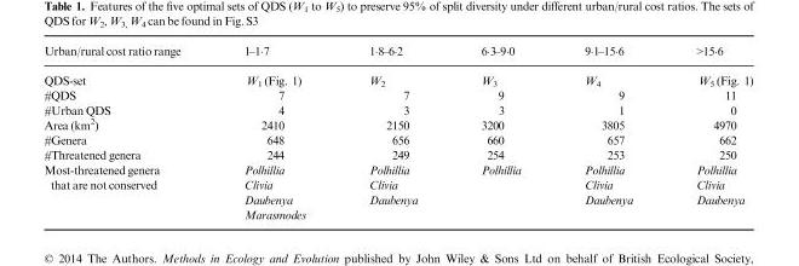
<table><thead><tr><td>Urban/rural cost ratio range</td><td>1–1·7</td><td>1·8–6·2</td><td>6·3–9·0</td><td>9·1–15·6</td><td>&gt;15·6</td></tr></thead><tbody><tr><td>QDS-set</td><td>W<sub>1</sub> (Fig. 1)</td><td>W<sub>2</sub></td><td>W<sub>3</sub></td><td>W<sub>4</sub></td><td>W<sub>5</sub> (Fig. 1)</td></tr><tr><td>#QDS</td><td>7</td><td>7</td><td>9</td><td>9</td><td>11</td></tr><tr><td>#Urban QDS</td><td>4</td><td>3</td><td>3</td><td>1</td><td>0</td></tr><tr><td>Area (km<sup>2</sup>)</td><td>2410</td><td>2150</td><td>3200</td><td>3805</td><td>4970</td></tr><tr><td>#Genera</td><td>648</td><td>656</td><td>660</td><td>657</td><td>662</td></tr><tr><td>#Threatened genera</td><td>244</td><td>249</td><td>254</td><td>253</td><td>250</td></tr><tr><td>Most-threatened genera that are not conserved</td><td>Polhillia Clivia Daubenya Marasmodes</td><td>Polhillia Clivia Daubenya</td><td>Polhillia</td><td>Polhillia Clivia Daubenya</td><td>Polhillia Clivia Daubenya</td></tr></tbody></table>